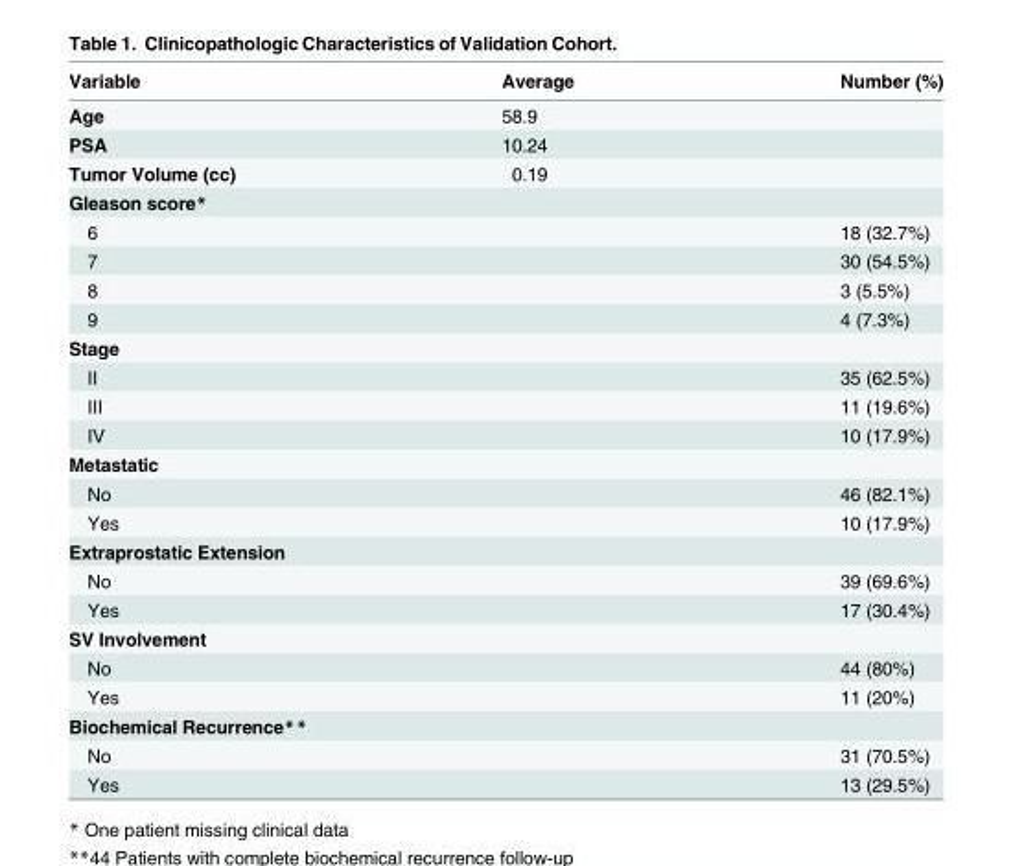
<table><thead><tr><td>Variable</td><td>Average</td><td>Number (%)</td></tr></thead><tbody><tr><td>Age</td><td>58.9</td><td></td></tr><tr><td>PSA</td><td>10.24</td><td></td></tr><tr><td>Tumor Volume (cc)</td><td>0.19</td><td></td></tr><tr><td colspan="3">Gleason score*</td></tr><tr><td>6</td><td></td><td>18 (32.7%)</td></tr><tr><td>7</td><td></td><td>30 (54.5%)</td></tr><tr><td>8</td><td></td><td>3 (5.5%)</td></tr><tr><td>9</td><td></td><td>4 (7.3%)</td></tr><tr><td colspan="3">Stage</td></tr><tr><td>II</td><td></td><td>35 (62.5%)</td></tr><tr><td>III</td><td></td><td>11 (19.6%)</td></tr><tr><td>IV</td><td></td><td>10 (17.9%)</td></tr><tr><td colspan="3">Metastatic</td></tr><tr><td>No</td><td></td><td>46 (82.1%)</td></tr><tr><td>Yes</td><td></td><td>10 (17.9%)</td></tr><tr><td colspan="3">Extraprostatic Extension</td></tr><tr><td>No</td><td></td><td>39 (69.6%)</td></tr><tr><td>Yes</td><td></td><td>17 (30.4%)</td></tr><tr><td colspan="3">SV Involvement</td></tr><tr><td>No</td><td></td><td>44 (80%)</td></tr><tr><td>Yes</td><td></td><td>11 (20%)</td></tr><tr><td colspan="3">Biochemical Recurrence**</td></tr><tr><td>No</td><td></td><td>31 (70.5%)</td></tr><tr><td>Yes</td><td></td><td>13 (29.5%)</td></tr></tbody></table>